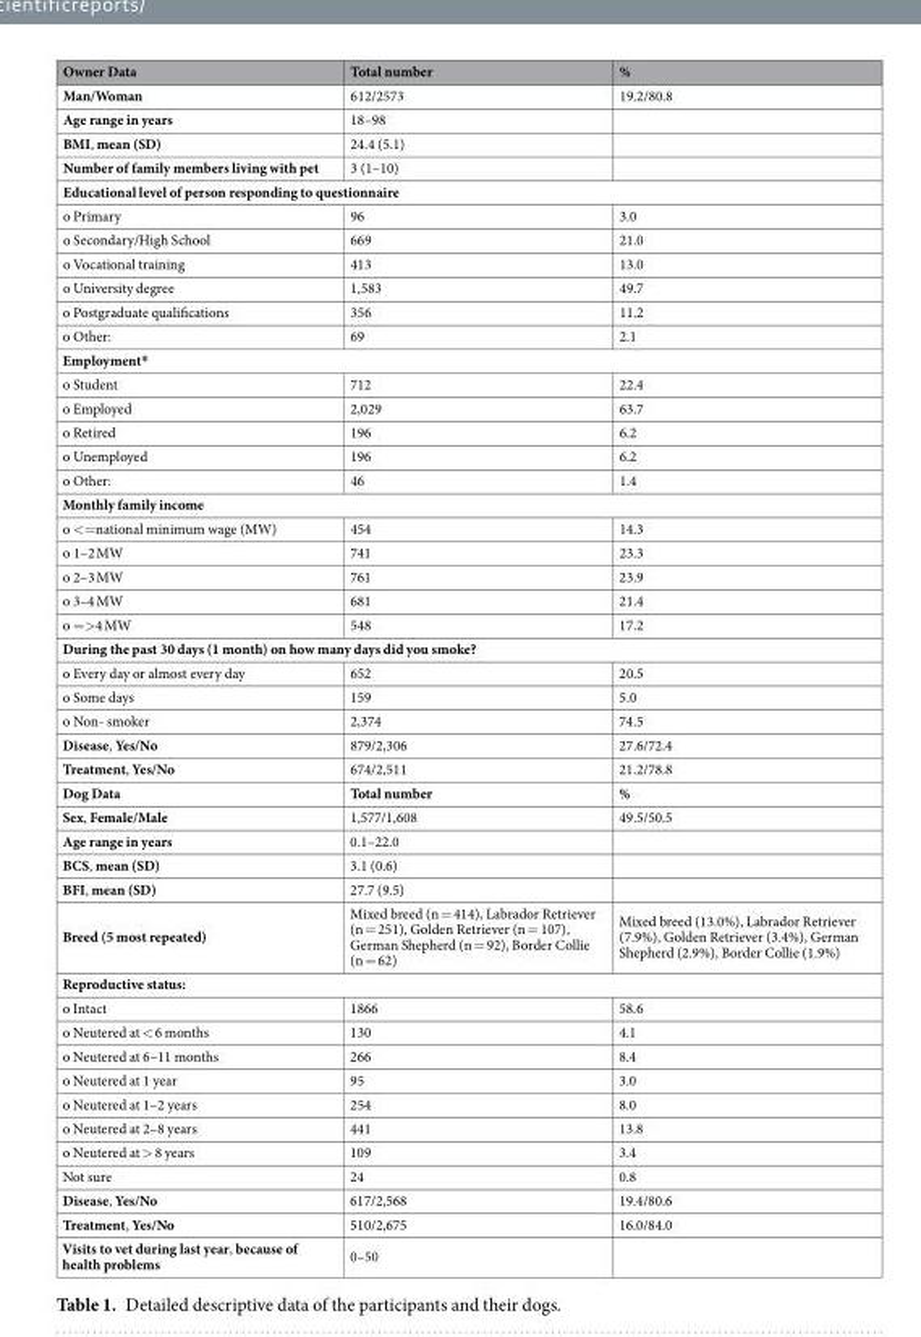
<table><thead><tr><td>Owner Data</td><td>Total number</td><td>%</td></tr></thead><tbody><tr><td>Man/Woman</td><td>612/2573</td><td>19.2/80.8</td></tr><tr><td>Age range in years</td><td>18–98</td><td></td></tr><tr><td>BMI, mean (SD)</td><td>24.4 (5.1)</td><td></td></tr><tr><td>Number of family members living with pet</td><td>3 (1–10)</td><td></td></tr><tr><td colspan="3">Educational level of person responding to questionnaire</td></tr><tr><td>o Primary</td><td>96</td><td>3.0</td></tr><tr><td>o Secondary/High School</td><td>669</td><td>21.0</td></tr><tr><td>o Vocational training</td><td>413</td><td>13.0</td></tr><tr><td>o University degree</td><td>1,583</td><td>49.7</td></tr><tr><td>o Postgraduate qualifications</td><td>356</td><td>11.2</td></tr><tr><td>o Other:</td><td>69</td><td>2.1</td></tr><tr><td colspan="3">Employment*</td></tr><tr><td>o Student</td><td>712</td><td>22.4</td></tr><tr><td>o Employed</td><td>2,029</td><td>63.7</td></tr><tr><td>o Retired</td><td>196</td><td>6.2</td></tr><tr><td>o Unemployed</td><td>196</td><td>6.2</td></tr><tr><td>o Other:</td><td>46</td><td>1.4</td></tr><tr><td colspan="3">Monthly family income</td></tr><tr><td>o &lt;=national minimum wage (MW)</td><td>454</td><td>14.3</td></tr><tr><td>o 1–2 MW</td><td>741</td><td>23.3</td></tr><tr><td>o 2–3 MW</td><td>761</td><td>23.9</td></tr><tr><td>o 3–4 MW</td><td>681</td><td>21.4</td></tr><tr><td>o =&gt;4 MW</td><td>548</td><td>17.2</td></tr><tr><td colspan="3">During the past 30 days (1 month) on how many days did you smoke?</td></tr><tr><td>o Every day or almost every day</td><td>652</td><td>20.5</td></tr><tr><td>o Some days</td><td>159</td><td>5.0</td></tr><tr><td>o Non- smoker</td><td>2,374</td><td>74.5</td></tr><tr><td>Disease, Yes/No</td><td>879/2,306</td><td>27.6/72.4</td></tr><tr><td>Treatment, Yes/No</td><td>674/2,511</td><td>21.2/78.8</td></tr><tr><td>Dog Data</td><td>Total number</td><td>%</td></tr><tr><td>Sex, Female/Male</td><td>1,577/1,608</td><td>49.5/50.5</td></tr><tr><td>Age range in years</td><td>0.1–22.0</td><td></td></tr><tr><td>BCS, mean (SD)</td><td>3.1 (0.6)</td><td></td></tr><tr><td>BFI, mean (SD)</td><td>27.7 (9.5)</td><td></td></tr><tr><td>Breed (5 most repeated)</td><td>Mixed breed (n = 414), Labrador Retriever (n = 251), Golden Retriever (n = 107), German Shepherd (n = 92), Border Collie (n = 62)</td><td>Mixed breed (13.0%), Labrador Retriever (7.9%), Golden Retriever (3.4%), German Shepherd (2.9%), Border Collie (1.9%)</td></tr><tr><td colspan="3">Reproductive status:</td></tr><tr><td>o Intact</td><td>1866</td><td>58.6</td></tr><tr><td>o Neutered at &lt; 6 months</td><td>130</td><td>4.1</td></tr><tr><td>o Neutered at 6–11 months</td><td>266</td><td>8.4</td></tr><tr><td>o Neutered at 1 year</td><td>95</td><td>3.0</td></tr><tr><td>o Neutered at 1–2 years</td><td>254</td><td>8.0</td></tr><tr><td>o Neutered at 2–8 years</td><td>441</td><td>13.8</td></tr><tr><td>o Neutered at &gt; 8 years</td><td>109</td><td>3.4</td></tr><tr><td>Not sure</td><td>24</td><td>0.8</td></tr><tr><td>Disease, Yes/No</td><td>617/2,568</td><td>19.4/80.6</td></tr><tr><td>Treatment, Yes/No</td><td>510/2,675</td><td>16.0/84.0</td></tr><tr><td>Visits to vet during last year, because of health problems</td><td>0–50</td><td></td></tr></tbody></table>